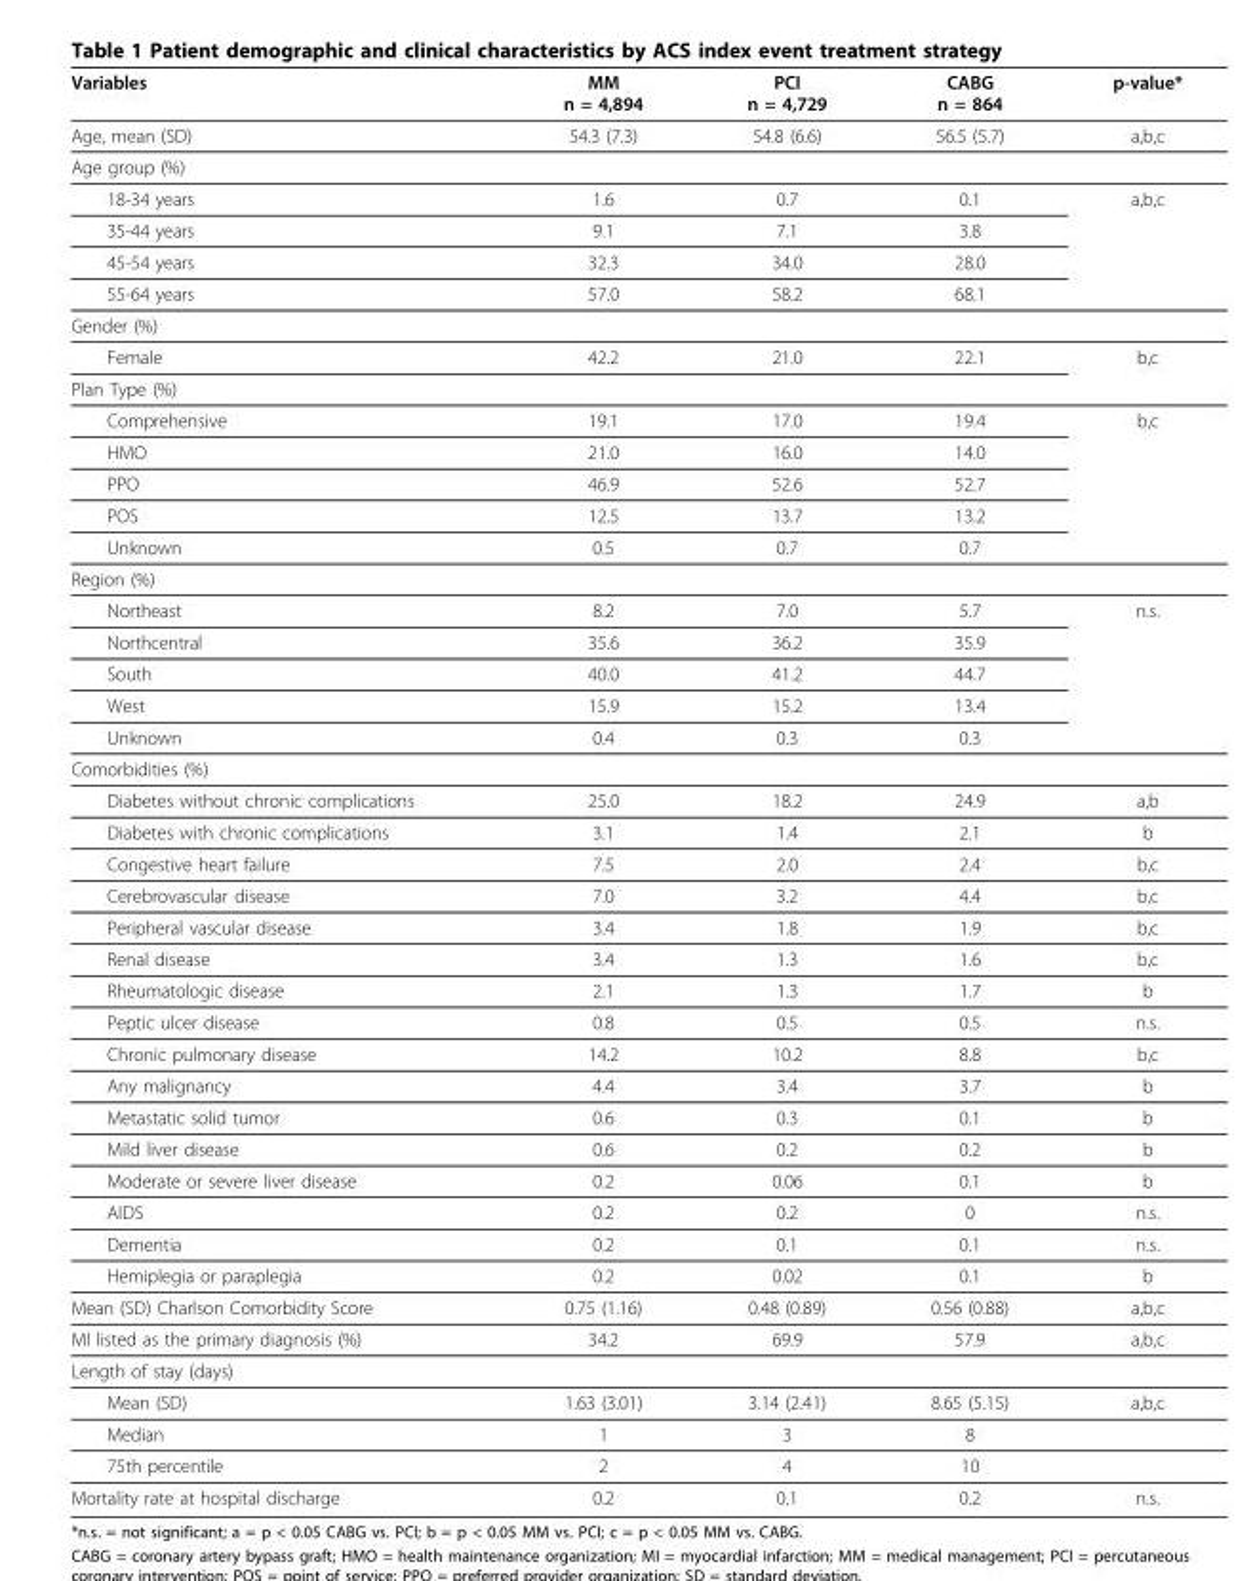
<table><thead><tr><td>Variables</td><td>MM n = 4,894</td><td>PCI n = 4,729</td><td>CABG n = 864</td><td>p-value*</td></tr></thead><tbody><tr><td>Age, mean (SD)</td><td>54.3 (7.3)</td><td>54.8 (6.6)</td><td>56.5 (5.7)</td><td>a,b,c</td></tr><tr><td colspan="5">Age group (%)</td></tr><tr><td>18-34 years</td><td>1.6</td><td>0.7</td><td>0.1</td><td>a,b,c</td></tr><tr><td>35-44 years</td><td>9.1</td><td>7.1</td><td>3.8</td><td></td></tr><tr><td>45-54 years</td><td>32.3</td><td>34.0</td><td>28.0</td><td></td></tr><tr><td>55-64 years</td><td>57.0</td><td>58.2</td><td>68.1</td><td></td></tr><tr><td colspan="5">Gender (%)</td></tr><tr><td>Female</td><td>42.2</td><td>21.0</td><td>22.1</td><td>b,c</td></tr><tr><td colspan="5">Plan Type (%)</td></tr><tr><td>Comprehensive</td><td>19.1</td><td>17.0</td><td>19.4</td><td>b,c</td></tr><tr><td>HMO</td><td>21.0</td><td>16.0</td><td>14.0</td><td></td></tr><tr><td>PPO</td><td>46.9</td><td>52.6</td><td>52.7</td><td></td></tr><tr><td>POS</td><td>12.5</td><td>13.7</td><td>13.2</td><td></td></tr><tr><td>Unknown</td><td>0.5</td><td>0.7</td><td>0.7</td><td></td></tr><tr><td colspan="5">Region (%)</td></tr><tr><td>Northeast</td><td>8.2</td><td>7.0</td><td>5.7</td><td>n.s.</td></tr><tr><td>Northcentral</td><td>35.6</td><td>36.2</td><td>35.9</td><td></td></tr><tr><td>South</td><td>40.0</td><td>41.2</td><td>44.7</td><td></td></tr><tr><td>West</td><td>15.9</td><td>15.2</td><td>13.4</td><td></td></tr><tr><td>Unknown</td><td>0.4</td><td>0.3</td><td>0.3</td><td></td></tr><tr><td colspan="5">Comorbidities (%)</td></tr><tr><td>Diabetes without chronic complications</td><td>25.0</td><td>18.2</td><td>24.9</td><td>a,b</td></tr><tr><td>Diabetes with chronic complications</td><td>3.1</td><td>1.4</td><td>2.1</td><td>b</td></tr><tr><td>Congestive heart failure</td><td>7.5</td><td>2.0</td><td>2.4</td><td>b,c</td></tr><tr><td>Cerebrovascular disease</td><td>7.0</td><td>3.2</td><td>4.4</td><td>b,c</td></tr><tr><td>Peripheral vascular disease</td><td>3.4</td><td>1.8</td><td>1.9</td><td>b,c</td></tr><tr><td>Renal disease</td><td>3.4</td><td>1.3</td><td>1.6</td><td>b,c</td></tr><tr><td>Rheumatologic disease</td><td>2.1</td><td>1.3</td><td>1.7</td><td>b</td></tr><tr><td>Peptic ulcer disease</td><td>0.8</td><td>0.5</td><td>0.5</td><td>n.s.</td></tr><tr><td>Chronic pulmonary disease</td><td>14.2</td><td>10.2</td><td>8.8</td><td>b,c</td></tr><tr><td>Any malignancy</td><td>4.4</td><td>3.4</td><td>3.7</td><td>b</td></tr><tr><td>Metastatic solid tumor</td><td>0.6</td><td>0.3</td><td>0.1</td><td>b</td></tr><tr><td>Mild liver disease</td><td>0.6</td><td>0.2</td><td>0.2</td><td>b</td></tr><tr><td>Moderate or severe liver disease</td><td>0.2</td><td>0.06</td><td>0.1</td><td>b</td></tr><tr><td>AIDS</td><td>0.2</td><td>0.2</td><td>0</td><td>n.s.</td></tr><tr><td>Dementia</td><td>0.2</td><td>0.1</td><td>0.1</td><td>n.s.</td></tr><tr><td>Hemiplegia or paraplegia</td><td>0.2</td><td>0.02</td><td>0.1</td><td>b</td></tr><tr><td>Mean (SD) Charlson Comorbidity Score</td><td>0.75 (1.16)</td><td>0.48 (0.89)</td><td>0.56 (0.88)</td><td>a,b,c</td></tr><tr><td>MI listed as the primary diagnosis (%)</td><td>34.2</td><td>69.9</td><td>57.9</td><td>a,b,c</td></tr><tr><td colspan="5">Length of stay (days)</td></tr><tr><td>Mean (SD)</td><td>1.63 (3.01)</td><td>3.14 (2.41)</td><td>8.65 (5.15)</td><td>a,b,c</td></tr><tr><td>Median</td><td>1</td><td>3</td><td>8</td><td></td></tr><tr><td>75th percentile</td><td>2</td><td>4</td><td>10</td><td></td></tr><tr><td>Mortality rate at hospital discharge</td><td>0.2</td><td>0.1</td><td>0.2</td><td>n.s.</td></tr></tbody></table>